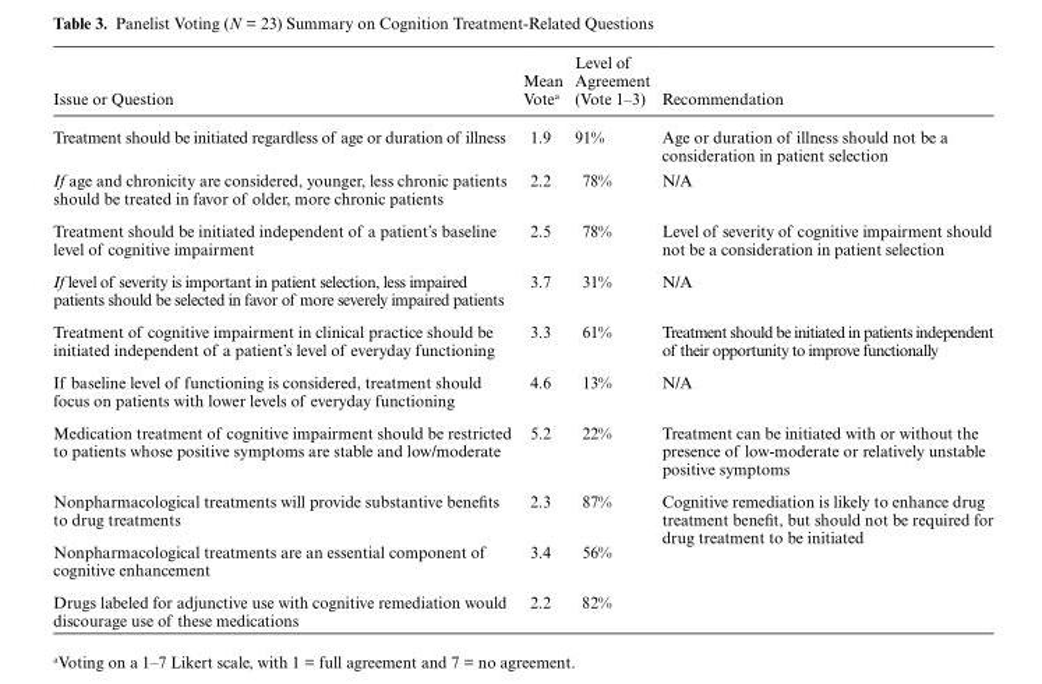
<table><thead><tr><td>Issue or Question</td><td>Mean Vote<sup>a</sup></td><td>Level of Agreement (Vote 1–3)</td><td>Recommendation</td></tr></thead><tbody><tr><td>Treatment should be initiated regardless of age or duration of illness</td><td>1.9</td><td>91%</td><td>Age or duration of illness should not be a consideration in patient selection</td></tr><tr><td>If age and chronicity are considered, younger, less chronic patients should be treated in favor of older, more chronic patients</td><td>2.2</td><td>78%</td><td>N/A</td></tr><tr><td>Treatment should be initiated independent of a patient’s baseline level of cognitive impairment</td><td>2.5</td><td>78%</td><td>Level of severity of cognitive impairment should not be a consideration in patient selection</td></tr><tr><td>If level of severity is important in patient selection, less impaired patients should be selected in favor of more severely impaired patients</td><td>3.7</td><td>31%</td><td>N/A</td></tr><tr><td>Treatment of cognitive impairment in clinical practice should be initiated independent of a patient’s level of everyday functioning</td><td>3.3</td><td>61%</td><td>Treatment should be initiated in patients independent of their opportunity to improve functionally</td></tr><tr><td>If baseline level of functioning is considered, treatment should focus on patients with lower levels of everyday functioning</td><td>4.6</td><td>13%</td><td>N/A</td></tr><tr><td>Medication treatment of cognitive impairment should be restricted to patients whose positive symptoms are stable and low/moderate</td><td>5.2</td><td>22%</td><td>Treatment can be initiated with or without the presence of low-moderate or relatively unstable positive symptoms</td></tr><tr><td>Nonpharmacological treatments will provide substantive benefits to drug treatments</td><td>2.3</td><td>87%</td><td rowspan="3">Cognitive remediation is likely to enhance drug treatment benefit, but should not be required for drug treatment to be initiated</td></tr><tr><td>Nonpharmacological treatments are an essential component of cognitive enhancement</td><td>3.4</td><td>56%</td></tr><tr><td>Drugs labeled for adjunctive use with cognitive remediation would discourage use of these medications</td><td>2.2</td><td>82%</td></tr></tbody></table>